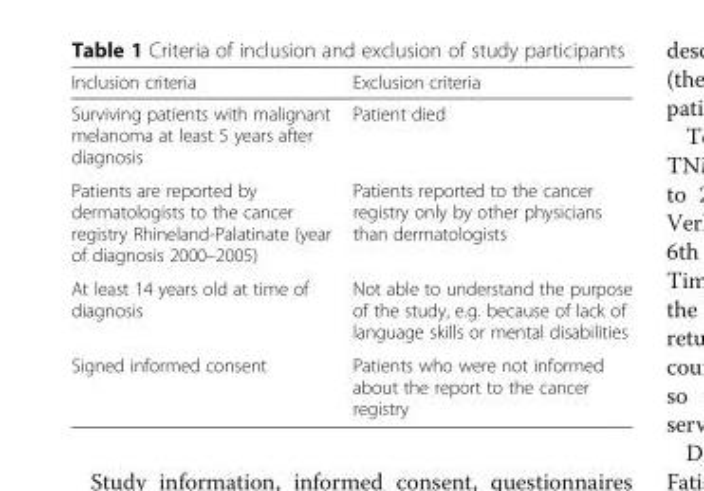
<table><thead><tr><td>Inclusion criteria</td><td>Exclusion criteria</td></tr></thead><tbody><tr><td>Surviving patients with malignant melanoma at least 5 years after diagnosis</td><td>Patient died</td></tr><tr><td>Patients are reported by dermatologists to the cancer registry Rhineland-Palatinate (year of diagnosis 2000–2005)</td><td>Patients reported to the cancer registry only by other physicians than dermatologists</td></tr><tr><td>At least 14 years old at time of diagnosis</td><td>Not able to understand the purpose of the study, e.g. because of lack of language skills or mental disabilities</td></tr><tr><td>Signed informed consent</td><td>Patients who were not informed about the report to the cancer registry</td></tr></tbody></table>